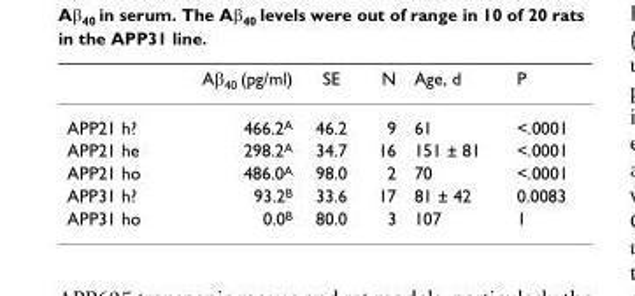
<table><thead><tr><td></td><td>Aβ<sub>40</sub> (pg/ml)</td><td>SE</td><td>N</td><td>Age, d</td><td>P</td></tr></thead><tbody><tr><td>APP21 h?</td><td>466.2<sup>A</sup></td><td>46.2</td><td>9</td><td>61</td><td>&lt;.0001</td></tr><tr><td>APP21 he</td><td>298.2<sup>A</sup></td><td>34.7</td><td>16</td><td>151 ± 81</td><td>&lt;.0001</td></tr><tr><td>APP21 ho</td><td>486.0<sup>A</sup></td><td>98.0</td><td>2</td><td>70</td><td>&lt;.0001</td></tr><tr><td>APP31 h?</td><td>93.2<sup>B</sup></td><td>33.6</td><td>17</td><td>81 ± 42</td><td>0.0083</td></tr><tr><td>APP31 ho</td><td>0.0<sup>B</sup></td><td>80.0</td><td>3</td><td>107</td><td>1</td></tr></tbody></table>